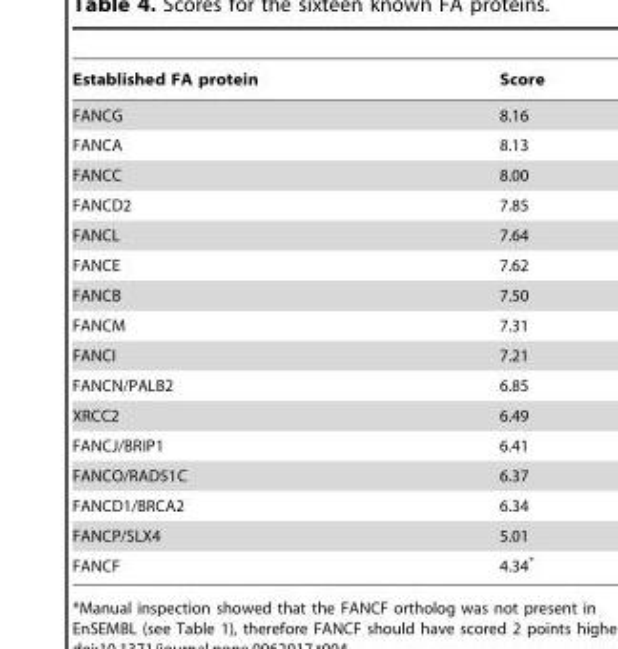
<table><thead><tr><td>Established FA protein</td><td>Score</td></tr></thead><tbody><tr><td>FANCG</td><td>8.16</td></tr><tr><td>FANCA</td><td>8.13</td></tr><tr><td>FANCC</td><td>8.00</td></tr><tr><td>FANCD2</td><td>7.85</td></tr><tr><td>FANCL</td><td>7.64</td></tr><tr><td>FANCE</td><td>7.62</td></tr><tr><td>FANCB</td><td>7.50</td></tr><tr><td>FANCM</td><td>7.31</td></tr><tr><td>FANCI</td><td>7.21</td></tr><tr><td>FANCN/PALB2</td><td>6.85</td></tr><tr><td>XRCC2</td><td>6.49</td></tr><tr><td>FANCJ/BRIP1</td><td>6.41</td></tr><tr><td>FANCO/RAD51C</td><td>6.37</td></tr><tr><td>FANCD1/BRCA2</td><td>6.34</td></tr><tr><td>FANCP/SLX4</td><td>5.01</td></tr><tr><td>FANCF</td><td>4.34*</td></tr></tbody></table>